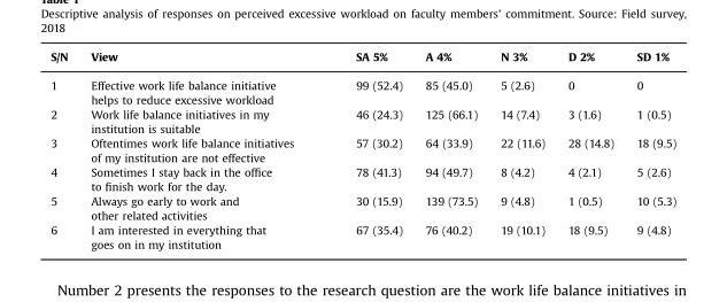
<table><thead><tr><td>S/N</td><td>View</td><td>SA 5%</td><td>A 4%</td><td>N 3%</td><td>D 2%</td><td>SD 1%</td></tr></thead><tbody><tr><td>1</td><td>Effective work life balance initiative helps to reduce excessive workload</td><td>99 (52.4)</td><td>85 (45.0)</td><td>5 (2.6)</td><td>0</td><td>0</td></tr><tr><td>2</td><td>Work life balance initiatives in my institution is suitable</td><td>46 (24.3)</td><td>125 (66.1)</td><td>14 (7.4)</td><td>3 (1.6)</td><td>1 (0.5)</td></tr><tr><td>3</td><td>Oftentimes work life balance initiatives of my institution are not effective</td><td>57 (30.2)</td><td>64 (33.9)</td><td>22 (11.6)</td><td>28 (14.8)</td><td>18 (9.5)</td></tr><tr><td>4</td><td>Sometimes I stay back in the office to finish work for the day.</td><td>78 (41.3)</td><td>94 (49.7)</td><td>8 (4.2)</td><td>4 (2.1)</td><td>5 (2.6)</td></tr><tr><td>5</td><td>Always go early to work and other related activities</td><td>30 (15.9)</td><td>139 (73.5)</td><td>9 (4.8)</td><td>1 (0.5)</td><td>10 (5.3)</td></tr><tr><td>6</td><td>I am interested in everything that goes on in my institution</td><td>67 (35.4)</td><td>76 (40.2)</td><td>19 (10.1)</td><td>18 (9.5)</td><td>9 (4.8)</td></tr></tbody></table>